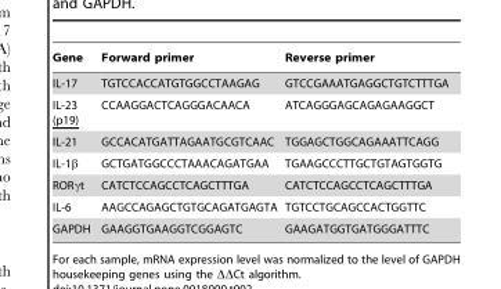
<table><thead><tr><td>Gene</td><td>Forward primer</td><td>Reverse primer</td></tr></thead><tbody><tr><td>IL-17</td><td>TGTCCACCATGTGGCCTAAGAG</td><td>GTCCGAAATGAGGCTGTCTTTGA</td></tr><tr><td>IL-23 (p19)</td><td>CCAAGGACTCAGGGACAACA</td><td>ATCAGGGAGCAGAGAAGGCT</td></tr><tr><td>IL-21</td><td>GCCACATGATTAGAATGCGTCAAC</td><td>TGGAGCTGGCAGAAATTCAGG</td></tr><tr><td>IL-1β</td><td>GCTGATGGCCCTAAACAGATGAA</td><td>TGAAGCCCTTGCTGTAGTGGTG</td></tr><tr><td>RORγt</td><td>CATCTCCAGCCTCAGCTTTGA</td><td>CATCTCCAGCCTCAGCTTTGA</td></tr><tr><td>IL-6</td><td>AAGCCAGAGCTGTGCAGATGAGTA</td><td>TGTCCTGCAGCCACTGGTTC</td></tr><tr><td>GAPDH</td><td>GAAGGTGAAGGTCGGAGTC</td><td>GAAGATGGTGATGGGATTTC</td></tr></tbody></table>